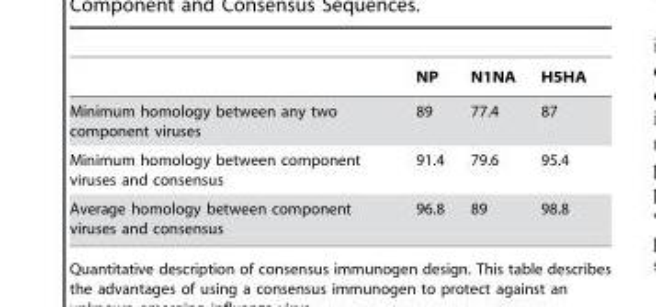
<table><thead><tr><td></td><td>NP</td><td>N1NA</td><td>H5HA</td></tr></thead><tbody><tr><td>Minimum homology between any two component viruses</td><td>89</td><td>77.4</td><td>87</td></tr><tr><td>Minimum homology between component viruses and consensus</td><td>91.4</td><td>79.6</td><td>95.4</td></tr><tr><td>Average homology between component viruses and consensus</td><td>96.8</td><td>89</td><td>98.8</td></tr></tbody></table>